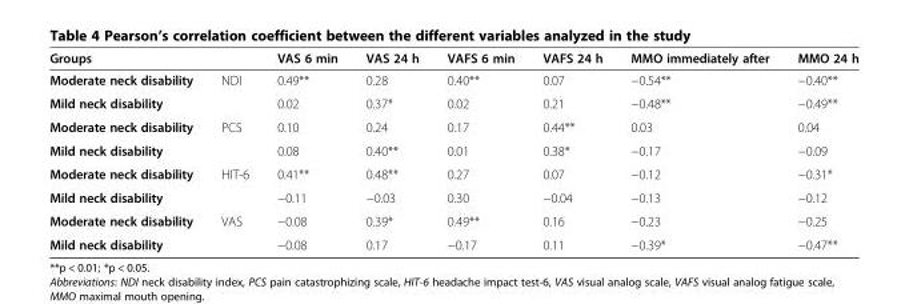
<table><thead><tr><td>Groups</td><td></td><td>VAS 6 min</td><td>VAS 24 h</td><td>VAFS 6 min</td><td>VAFS 24 h</td><td>MMO immediately after</td><td>MMO 24 h</td></tr></thead><tbody><tr><td>Moderate neck disability</td><td>NDI</td><td>0.49**</td><td>0.28</td><td>0.40**</td><td>0.07</td><td>−0.54**</td><td>−0.40**</td></tr><tr><td>Mild neck disability</td><td></td><td>0.02</td><td>0.37*</td><td>0.02</td><td>0.21</td><td>−0.48**</td><td>−0.49**</td></tr><tr><td>Moderate neck disability</td><td>PCS</td><td>0.10</td><td>0.24</td><td>0.17</td><td>0.44**</td><td>0.03</td><td>0.04</td></tr><tr><td>Mild neck disability</td><td></td><td>0.08</td><td>0.40**</td><td>0.01</td><td>0.38*</td><td>−0.17</td><td>−0.09</td></tr><tr><td>Moderate neck disability</td><td>HIT-6</td><td>0.41**</td><td>0.48**</td><td>0.27</td><td>0.07</td><td>−0.12</td><td>−0.31*</td></tr><tr><td>Mild neck disability</td><td></td><td>−0.11</td><td>−0.03</td><td>0.30</td><td>−0.04</td><td>−0.13</td><td>−0.12</td></tr><tr><td>Moderate neck disability</td><td>VAS</td><td>−0.08</td><td>0.39*</td><td>0.49**</td><td>0.16</td><td>−0.23</td><td>−0.25</td></tr><tr><td>Mild neck disability</td><td></td><td>−0.08</td><td>0.17</td><td>−0.17</td><td>0.11</td><td>−0.39*</td><td>−0.47**</td></tr></tbody></table>